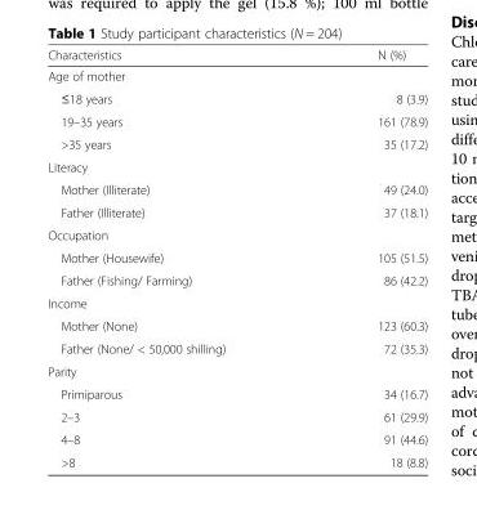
<table><thead><tr><td>Characteristics</td><td>N (%)</td></tr></thead><tbody><tr><td colspan="2">Age of mother</td></tr><tr><td>≤18 years</td><td>8 (3.9)</td></tr><tr><td>19–35 years</td><td>161 (78.9)</td></tr><tr><td>&gt;35 years</td><td>35 (17.2)</td></tr><tr><td colspan="2">Literacy</td></tr><tr><td>Mother (Illiterate)</td><td>49 (24.0)</td></tr><tr><td>Father (Illiterate)</td><td>37 (18.1)</td></tr><tr><td colspan="2">Occupation</td></tr><tr><td>Mother (Housewife)</td><td>105 (51.5)</td></tr><tr><td>Father (Fishing/ Farming)</td><td>86 (42.2)</td></tr><tr><td colspan="2">Income</td></tr><tr><td>Mother (None)</td><td>123 (60.3)</td></tr><tr><td>Father (None/ &lt; 50,000 shilling)</td><td>72 (35.3)</td></tr><tr><td colspan="2">Parity</td></tr><tr><td>Primiparous</td><td>34 (16.7)</td></tr><tr><td>2–3</td><td>61 (29.9)</td></tr><tr><td>4–8</td><td>91 (44.6)</td></tr><tr><td>&gt;8</td><td>18 (8.8)</td></tr></tbody></table>